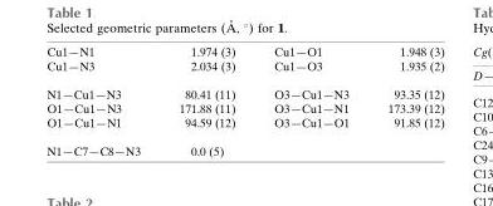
<table><tbody><tr><td>Cu1—N1</td><td>1.974 (3)</td><td>Cu1—O1</td><td>1.948 (3)</td></tr><tr><td>Cu1—N3</td><td>2.034 (3)</td><td>Cu1—O3</td><td>1.935 (2)</td></tr><tr><td>N1—Cu1—N3</td><td>80.41 (11)</td><td>O3—Cu1—N3</td><td>93.35 (12)</td></tr><tr><td>O1—Cu1—N3</td><td>171.88 (11)</td><td>O3—Cu1—N1</td><td>173.39 (12)</td></tr><tr><td>O1—Cu1—N1</td><td>94.59 (12)</td><td>O3—Cu1—O1</td><td>91.85 (12)</td></tr><tr><td>N1—C7—C8—N3</td><td>0.0 (5)</td><td></td><td></td></tr></tbody></table>